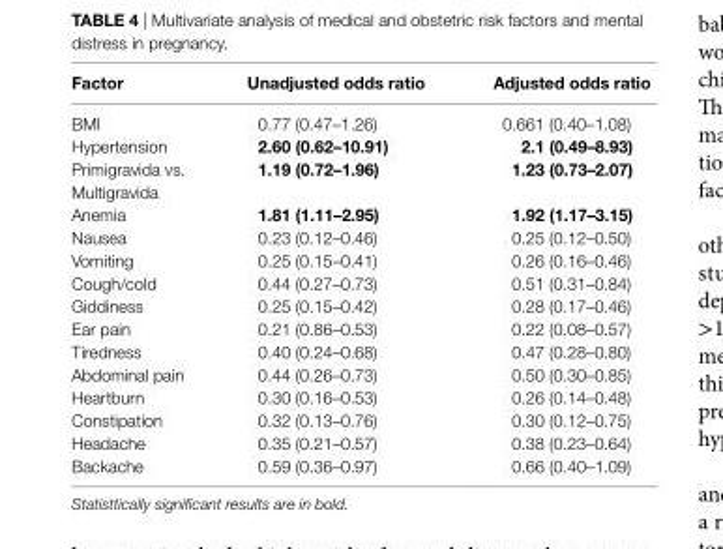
<table><thead><tr><td>Factor</td><td>Unadjusted odds ratio</td><td>adjusted odds ratio</td></tr></thead><tbody><tr><td>BMI</td><td>0.77 (0.47–1.26)</td><td>0.661 (0.40–1.08)</td></tr><tr><td>Hypertension</td><td>2.60 (0.62–10.91)</td><td>2.1 (0.49–8.93)</td></tr><tr><td>Primigravida vs. Multigravida</td><td>1.19 (0.72–1.96)</td><td>1.23 (0.73–2.07)</td></tr><tr><td>Anemia</td><td>1.81 (1.11–2.95)</td><td>1.92 (1.17–3.15)</td></tr><tr><td>Nausea</td><td>0.23 (0.12–0.46)</td><td>0.25 (0.12–0.50)</td></tr><tr><td>Vomiting</td><td>0.25 (0.15–0.41)</td><td>0.26 (0.16–0.46)</td></tr><tr><td>Cough/cold</td><td>0.44 (0.27–0.73)</td><td>0.51 (0.31–0.84)</td></tr><tr><td>Giddiness</td><td>0.25 (0.15–0.42)</td><td>0.28 (0.17–0.46)</td></tr><tr><td>Ear pain</td><td>0.21 (0.86–0.53)</td><td>0.22 (0.08–0.57)</td></tr><tr><td>Tiredness</td><td>0.40 (0.24–0.68)</td><td>0.47 (0.28–0.80)</td></tr><tr><td>Abdominal pain</td><td>0.44 (0.26–0.73)</td><td>0.50 (0.30–0.85)</td></tr><tr><td>Heartburn</td><td>0.30 (0.16–0.53)</td><td>0.26 (0.14–0.48)</td></tr><tr><td>Constipation</td><td>0.32 (0.13–0.76)</td><td>0.30 (0.12–0.75)</td></tr><tr><td>Headache</td><td>0.35 (0.21–0.57)</td><td>0.38 (0.23–0.64)</td></tr><tr><td>Backache</td><td>0.59 (0.36–0.97)</td><td>0.66 (0.40–1.09)</td></tr></tbody></table>